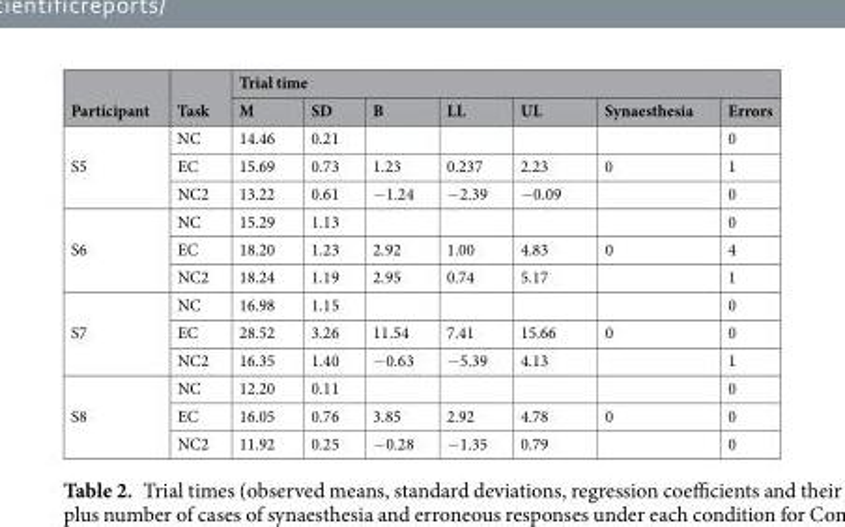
<table><thead><tr><td rowspan="2">Participant</td><td rowspan="2">Task</td><td colspan="7">Trial time</td></tr><tr><td>M</td><td>SD</td><td>B</td><td>LL</td><td>UL</td><td>Synaesthesia</td><td>Errors</td></tr></thead><tbody><tr><td rowspan="3">S5</td><td>NC</td><td>14.46</td><td>0.21</td><td></td><td></td><td></td><td></td><td>0</td></tr><tr><td>EC</td><td>15.69</td><td>0.73</td><td>1.23</td><td>0.237</td><td>2.23</td><td>0</td><td>1</td></tr><tr><td>NC2</td><td>13.22</td><td>0.61</td><td>−1.24</td><td>−2.39</td><td>−0.09</td><td></td><td>0</td></tr><tr><td rowspan="3">S6</td><td>NC</td><td>15.29</td><td>1.13</td><td></td><td></td><td></td><td></td><td>0</td></tr><tr><td>EC</td><td>18.20</td><td>1.23</td><td>2.92</td><td>1.00</td><td>4.83</td><td>0</td><td>4</td></tr><tr><td>NC2</td><td>18.24</td><td>1.19</td><td>2.95</td><td>0.74</td><td>5.17</td><td></td><td>1</td></tr><tr><td rowspan="3">S7</td><td>NC</td><td>16.98</td><td>1.15</td><td></td><td></td><td></td><td></td><td>0</td></tr><tr><td>EC</td><td>28.52</td><td>3.26</td><td>11.54</td><td>7.41</td><td>15.66</td><td>0</td><td>0</td></tr><tr><td>NC2</td><td>16.35</td><td>1.40</td><td>−0.63</td><td>−5.39</td><td>4.13</td><td></td><td>1</td></tr><tr><td rowspan="3">S8</td><td>NC</td><td>12.20</td><td>0.11</td><td></td><td></td><td></td><td></td><td>0</td></tr><tr><td>EC</td><td>16.05</td><td>0.76</td><td>3.85</td><td>2.92</td><td>4.78</td><td>0</td><td>0</td></tr><tr><td>NC2</td><td>11.92</td><td>0.25</td><td>−0.28</td><td>−1.35</td><td>0.79</td><td></td><td>0</td></tr></tbody></table>